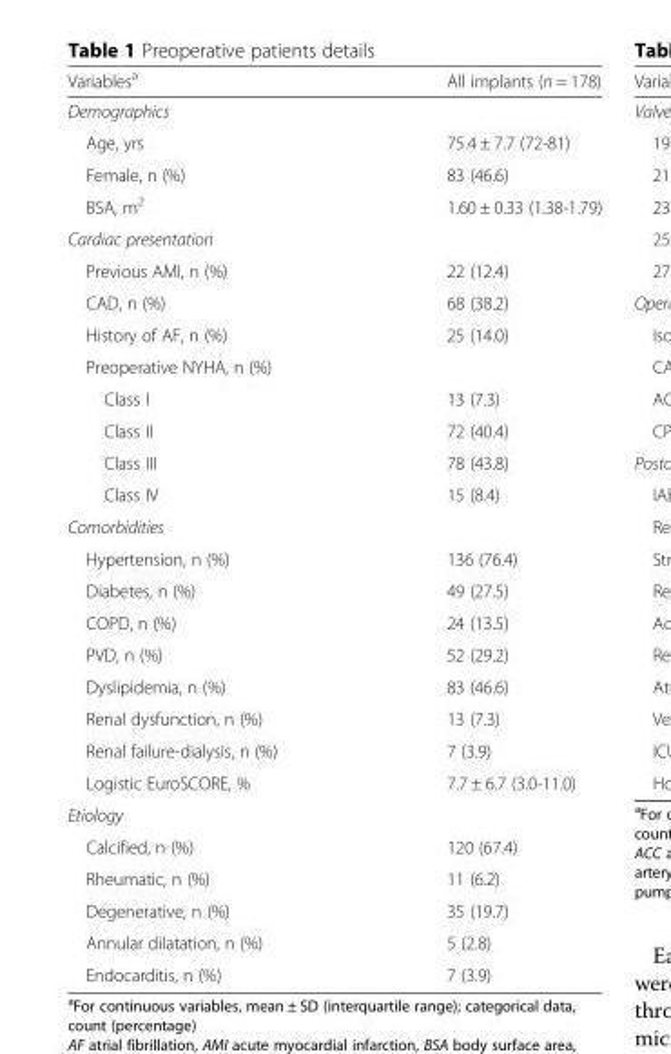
<table><thead><tr><td>Variables<sup>a</sup></td><td>All implants (n = 178)</td></tr></thead><tbody><tr><td colspan="2">Demographics</td></tr><tr><td>Age, yrs</td><td>75.4 ± 7.7 (72-81)</td></tr><tr><td>Female, n (%)</td><td>83 (46.6)</td></tr><tr><td>BSA, m<sup>2</sup></td><td>1.60 ± 0.33 (1.38-1.79)</td></tr><tr><td colspan="2">Cardiac presentation</td></tr><tr><td>Previous AMI, n (%)</td><td>22 (12.4)</td></tr><tr><td>CAD, n (%)</td><td>68 (38.2)</td></tr><tr><td>History of AF, n (%)</td><td>25 (14.0)</td></tr><tr><td colspan="2">Preoperative NYHA, n (%)</td></tr><tr><td>Class I</td><td>13 (7.3)</td></tr><tr><td>Class II</td><td>72 (40.4)</td></tr><tr><td>Class III</td><td>78 (43.8)</td></tr><tr><td>Class IV</td><td>15 (8.4)</td></tr><tr><td colspan="2">Comorbidities</td></tr><tr><td>Hypertension, n (%)</td><td>136 (76.4)</td></tr><tr><td>Diabetes, n (%)</td><td>49 (27.5)</td></tr><tr><td>COPD, n (%)</td><td>24 (13.5)</td></tr><tr><td>PVD, n (%)</td><td>52 (29.2)</td></tr><tr><td>Dyslipidemia, n (%)</td><td>83 (46.6)</td></tr><tr><td>Renal dysfunction, n (%)</td><td>13 (7.3)</td></tr><tr><td>Renal failure-dialysis, n (%)</td><td>7 (3.9)</td></tr><tr><td>Logistic EuroSCORE, %</td><td>7.7 ± 6.7 (3.0-11.0)</td></tr><tr><td colspan="2">Etiology</td></tr><tr><td>Calcified, n (%)</td><td>120 (67.4)</td></tr><tr><td>Rheumatic, n (%)</td><td>11 (6.2)</td></tr><tr><td>Degenerative, n (%)</td><td>35 (19.7)</td></tr><tr><td>Annular dilatation, n (%)</td><td>5 (2.8)</td></tr><tr><td>Endocarditis, n (%)</td><td>7 (3.9)</td></tr></tbody></table>